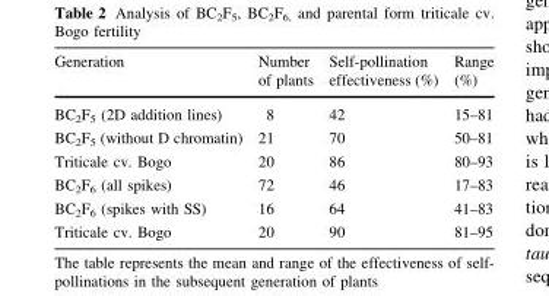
<table><thead><tr><td>Generation</td><td>Number of plants</td><td>Self-pollination effectiveness (%)</td><td>Range (%)</td></tr></thead><tbody><tr><td>BC<sub>2</sub>F<sub>5</sub> (2D addition lines)</td><td>8</td><td>42</td><td>15–81</td></tr><tr><td>BC<sub>2</sub>F<sub>5</sub> (without D chromatin)</td><td>21</td><td>70</td><td>50–81</td></tr><tr><td>Triticale cv. Bogo</td><td>20</td><td>86</td><td>80–93</td></tr><tr><td>BC<sub>2</sub>F<sub>6</sub> (all spikes)</td><td>72</td><td>46</td><td>17–83</td></tr><tr><td>BC<sub>2</sub>F<sub>6</sub> (spikes with SS)</td><td>16</td><td>64</td><td>41–83</td></tr><tr><td>Triticale cv. Bogo</td><td>20</td><td>90</td><td>81–95</td></tr></tbody></table>